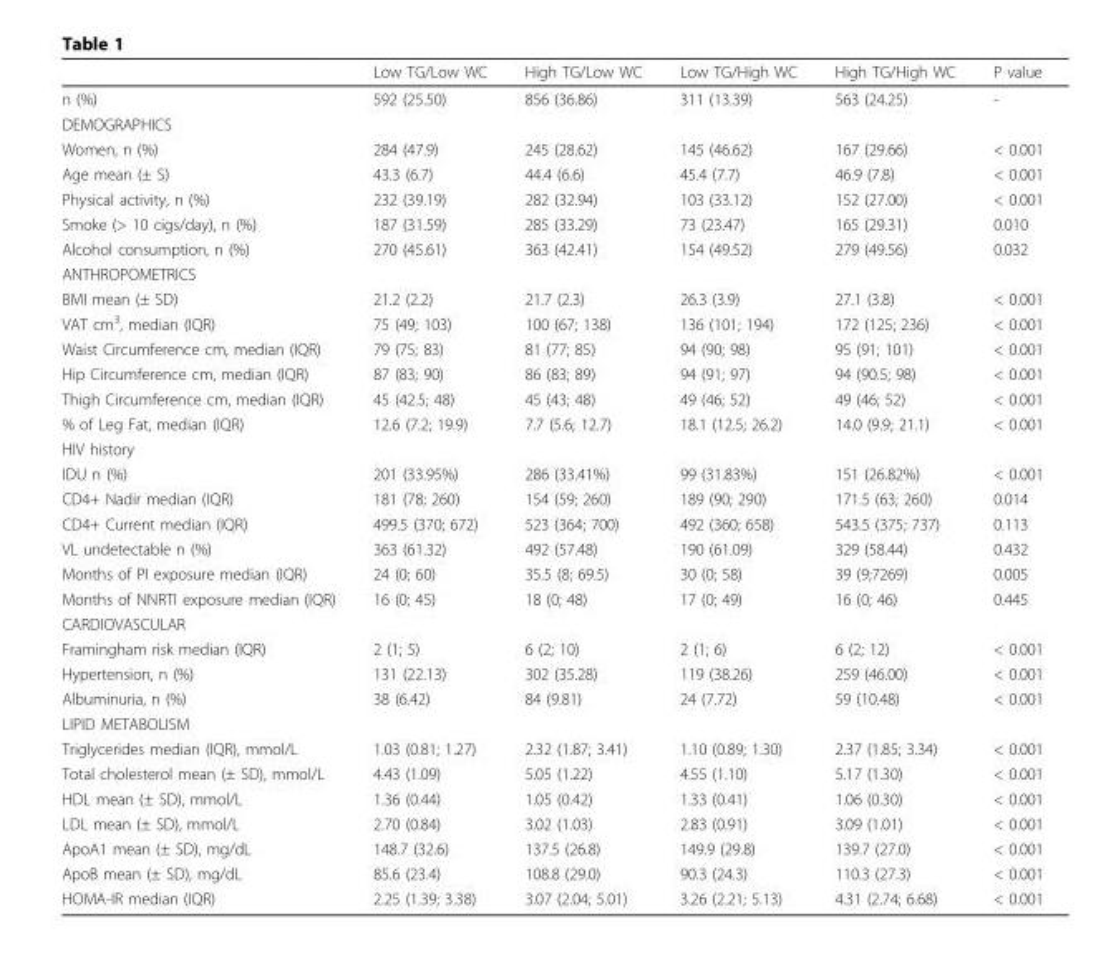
<table><thead><tr><td></td><td>Low TG/Low WC</td><td>High TG/Low WC</td><td>Low TG/High WC</td><td>High TG/High WC</td><td>P value</td></tr></thead><tbody><tr><td>n (%)</td><td>592 (25.50)</td><td>856 (36.86)</td><td>311 (13.39)</td><td>563 (24.25)</td><td>-</td></tr><tr><td colspan="6">DEMOGRAPHICS</td></tr><tr><td>Women, n (%)</td><td>284 (47.9)</td><td>245 (28.62)</td><td>145 (46.62)</td><td>167 (29.66)</td><td>&lt; 0.001</td></tr><tr><td>Age mean (± S)</td><td>43.3 (6.7)</td><td>44.4 (6.6)</td><td>45.4 (7.7)</td><td>46.9 (7.8)</td><td>&lt; 0.001</td></tr><tr><td>Physical activity, n (%)</td><td>232 (39.19)</td><td>282 (32.94)</td><td>103 (33.12)</td><td>152 (27.00)</td><td>&lt; 0.001</td></tr><tr><td>Smoke (&gt; 10 cigs/day), n (%)</td><td>187 (31.59)</td><td>285 (33.29)</td><td>73 (23.47)</td><td>165 (29.31)</td><td>0.010</td></tr><tr><td>Alcohol consumption, n (%)</td><td>270 (45.61)</td><td>363 (42.41)</td><td>154 (49.52)</td><td>279 (49.56)</td><td>0.032</td></tr><tr><td colspan="6">ANTHROPOMETRICS</td></tr><tr><td>BMI mean (± SD)</td><td>21.2 (2.2)</td><td>21.7 (2.3)</td><td>26.3 (3.9)</td><td>27.1 (3.8)</td><td>&lt; 0.001</td></tr><tr><td>VAT cm<sup>3</sup>, median (IQR)</td><td>75 (49; 103)</td><td>100 (67; 138)</td><td>136 (101; 194)</td><td>172 (125; 236)</td><td>&lt; 0.001</td></tr><tr><td>Waist Circumference cm, median (IQR)</td><td>79 (75; 83)</td><td>81 (77; 85)</td><td>94 (90; 98)</td><td>95 (91; 101)</td><td>&lt; 0.001</td></tr><tr><td>Hip Circumference cm, median (IQR)</td><td>87 (83; 90)</td><td>86 (83; 89)</td><td>94 (91; 97)</td><td>94 (90.5; 98)</td><td>&lt; 0.001</td></tr><tr><td>Thigh Circumference cm, median (IQR)</td><td>45 (42.5; 48)</td><td>45 (43; 48)</td><td>49 (46; 52)</td><td>49 (46; 52)</td><td>&lt; 0.001</td></tr><tr><td>% of Leg Fat, median (IQR)</td><td>12.6 (7.2; 19.9)</td><td>7.7 (5.6; 12.7)</td><td>18.1 (12.5; 26.2)</td><td>14.0 (9.9; 21.1)</td><td>&lt; 0.001</td></tr><tr><td colspan="6">HIV history</td></tr><tr><td>IDU n (%)</td><td>201 (33.95%)</td><td>286 (33.41%)</td><td>99 (31.83%)</td><td>151 (26.82%)</td><td>&lt; 0.001</td></tr><tr><td>CD4+ Nadir median (IQR)</td><td>181 (78; 260)</td><td>154 (59; 260)</td><td>189 (90; 290)</td><td>171.5 (63; 260)</td><td>0.014</td></tr><tr><td>CD4+ Current median (IQR)</td><td>499.5 (370; 672)</td><td>523 (364; 700)</td><td>492 (360; 658)</td><td>543.5 (375; 737)</td><td>0.113</td></tr><tr><td>VL undetectable n (%)</td><td>363 (61.32)</td><td>492 (57.48)</td><td>190 (61.09)</td><td>329 (58.44)</td><td>0.432</td></tr><tr><td>Months of PI exposure median (IQR)</td><td>24 (0; 60)</td><td>35.5 (8; 69.5)</td><td>30 (0; 58)</td><td>39 (9;7269)</td><td>0.005</td></tr><tr><td>Months of NNRTI exposure median (IQR)</td><td>16 (0; 45)</td><td>18 (0; 48)</td><td>17 (0; 49)</td><td>16 (0; 46)</td><td>0.445</td></tr><tr><td colspan="6">CARDIOVASCULAR</td></tr><tr><td>Framingham risk median (IQR)</td><td>2 (1; 5)</td><td>6 (2; 10)</td><td>2 (1; 6)</td><td>6 (2; 12)</td><td>&lt; 0.001</td></tr><tr><td>Hypertension, n (%)</td><td>131 (22.13)</td><td>302 (35.28)</td><td>119 (38.26)</td><td>259 (46.00)</td><td>&lt; 0.001</td></tr><tr><td>Albuminuria, n (%)</td><td>38 (6.42)</td><td>84 (9.81)</td><td>24 (7.72)</td><td>59 (10.48)</td><td>&lt; 0.001</td></tr><tr><td colspan="6">LIPID METABOLISM</td></tr><tr><td>Triglycerides median (IQR), mmol/L</td><td>1.03 (0.81; 1.27)</td><td>2.32 (1.87; 3.41)</td><td>1.10 (0.89; 1.30)</td><td>2.37 (1.85; 3.34)</td><td>&lt; 0.001</td></tr><tr><td>Total cholesterol mean (± SD), mmol/L</td><td>4.43 (1.09)</td><td>5.05 (1.22)</td><td>4.55 (1.10)</td><td>5.17 (1.30)</td><td>&lt; 0.001</td></tr><tr><td>HDL mean (± SD), mmol/L</td><td>1.36 (0.44)</td><td>1.05 (0.42)</td><td>1.33 (0.41)</td><td>1.06 (0.30)</td><td>&lt; 0.001</td></tr><tr><td>LDL mean (± SD), mmol/L</td><td>2.70 (0.84)</td><td>3.02 (1.03)</td><td>2.83 (0.91)</td><td>3.09 (1.01)</td><td>&lt; 0.001</td></tr><tr><td>ApoA1 mean (± SD), mg/dL</td><td>148.7 (32.6)</td><td>137.5 (26.8)</td><td>149.9 (29.8)</td><td>139.7 (27.0)</td><td>&lt; 0.001</td></tr><tr><td>ApoB mean (± SD), mg/dL</td><td>85.6 (23.4)</td><td>108.8 (29.0)</td><td>90.3 (24.3)</td><td>110.3 (27.3)</td><td>&lt; 0.001</td></tr><tr><td>HOMA-IR median (IQR)</td><td>2.25 (1.39; 3.38)</td><td>3.07 (2.04; 5.01)</td><td>3.26 (2.21; 5.13)</td><td>4.31 (2.74; 6.68)</td><td>&lt; 0.001</td></tr></tbody></table>